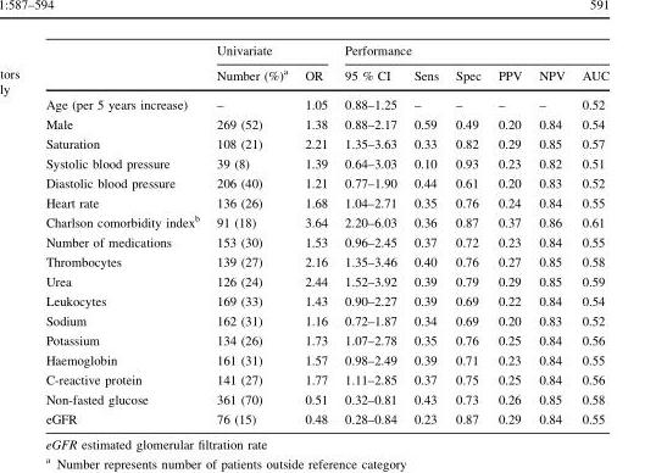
<table><thead><tr><td rowspan="2"></td><td colspan="2">Univariate</td><td colspan="6">Performance</td></tr><tr><td>Number (%)<sup>a</sup></td><td>OR</td><td>95 % CI</td><td>Sens</td><td>Spec</td><td>PPV</td><td>NPV</td><td>AUC</td></tr></thead><tbody><tr><td>Age (per 5 years increase)</td><td>–</td><td>1.05</td><td>0.88–1.25</td><td>–</td><td>–</td><td>–</td><td>–</td><td>0.52</td></tr><tr><td>Male</td><td>269 (52)</td><td>1.38</td><td>0.88–2.17</td><td>0.59</td><td>0.49</td><td>0.20</td><td>0.84</td><td>0.54</td></tr><tr><td>Saturation</td><td>108 (21)</td><td>2.21</td><td>1.35–3.63</td><td>0.33</td><td>0.82</td><td>0.29</td><td>0.85</td><td>0.57</td></tr><tr><td>Systolic blood pressure</td><td>39 (8)</td><td>1.39</td><td>0.64–3.03</td><td>0.10</td><td>0.93</td><td>0.23</td><td>0.82</td><td>0.51</td></tr><tr><td>Diastolic blood pressure</td><td>206 (40)</td><td>1.21</td><td>0.77–1.90</td><td>0.44</td><td>0.61</td><td>0.20</td><td>0.83</td><td>0.52</td></tr><tr><td>Heart rate</td><td>136 (26)</td><td>1.68</td><td>1.04–2.71</td><td>0.35</td><td>0.76</td><td>0.24</td><td>0.84</td><td>0.55</td></tr><tr><td>Charlson comorbidity index<sup>b</sup></td><td>91 (18)</td><td>3.64</td><td>2.20–6.03</td><td>0.36</td><td>0.87</td><td>0.37</td><td>0.86</td><td>0.61</td></tr><tr><td>Number of medications</td><td>153 (30)</td><td>1.53</td><td>0.96–2.45</td><td>0.37</td><td>0.72</td><td>0.23</td><td>0.84</td><td>0.55</td></tr><tr><td>Thrombocytes</td><td>139 (27)</td><td>2.16</td><td>1.35–3.46</td><td>0.40</td><td>0.76</td><td>0.27</td><td>0.85</td><td>0.58</td></tr><tr><td>Urea</td><td>126 (24)</td><td>2.44</td><td>1.52–3.92</td><td>0.39</td><td>0.79</td><td>0.29</td><td>0.85</td><td>0.59</td></tr><tr><td>Leukocytes</td><td>169 (33)</td><td>1.43</td><td>0.90–2.27</td><td>0.39</td><td>0.69</td><td>0.22</td><td>0.84</td><td>0.54</td></tr><tr><td>Sodium</td><td>162 (31)</td><td>1.16</td><td>0.72–1.87</td><td>0.34</td><td>0.69</td><td>0.20</td><td>0.83</td><td>0.52</td></tr><tr><td>Potassium</td><td>134 (26)</td><td>1.73</td><td>1.07–2.78</td><td>0.35</td><td>0.76</td><td>0.25</td><td>0.84</td><td>0.56</td></tr><tr><td>Haemoglobin</td><td>161 (31)</td><td>1.57</td><td>0.98–2.49</td><td>0.39</td><td>0.71</td><td>0.23</td><td>0.84</td><td>0.55</td></tr><tr><td>C-reactive protein</td><td>141 (27)</td><td>1.77</td><td>1.11–2.85</td><td>0.37</td><td>0.75</td><td>0.25</td><td>0.84</td><td>0.56</td></tr><tr><td>Non-fasted glucose</td><td>361 (70)</td><td>0.51</td><td>0.32–0.81</td><td>0.43</td><td>0.73</td><td>0.26</td><td>0.85</td><td>0.58</td></tr><tr><td>eGFR</td><td>76 (15)</td><td>0.48</td><td>0.28–0.84</td><td>0.23</td><td>0.87</td><td>0.29</td><td>0.84</td><td>0.55</td></tr></tbody></table>